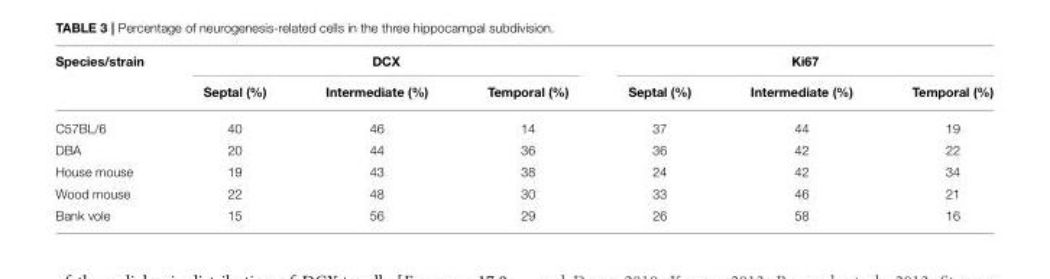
<table><thead><tr><td rowspan="2">Species/strain</td><td colspan="3">DCX</td><td colspan="3">Ki67</td></tr><tr><td>Septal (%)</td><td>Intermediate (%)</td><td>Temporal (%)</td><td>Septal (%)</td><td>Intermediate (%)</td><td>Temporal (%)</td></tr></thead><tbody><tr><td>C57BL/6</td><td>40</td><td>46</td><td>14</td><td>37</td><td>44</td><td>19</td></tr><tr><td>DBA</td><td>20</td><td>44</td><td>36</td><td>36</td><td>42</td><td>22</td></tr><tr><td>House mouse</td><td>19</td><td>43</td><td>38</td><td>24</td><td>42</td><td>34</td></tr><tr><td>Wood mouse</td><td>22</td><td>48</td><td>30</td><td>33</td><td>46</td><td>21</td></tr><tr><td>Bank vole</td><td>15</td><td>56</td><td>29</td><td>26</td><td>58</td><td>16</td></tr></tbody></table>